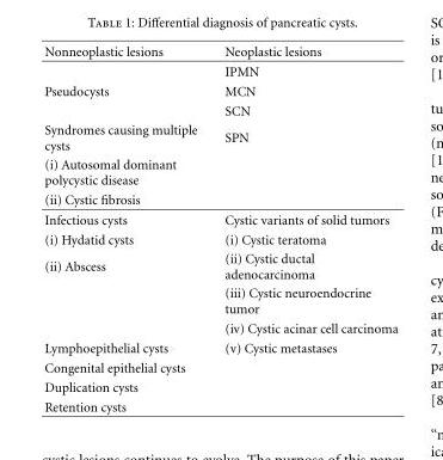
<table><thead><tr><td>Nonneoplastic lesions</td><td>Neoplastic lesions</td></tr></thead><tbody><tr><td></td><td>IPMN</td></tr><tr><td rowspan="2">Pseudocysts</td><td>MCN</td></tr><tr><td>SCN</td></tr><tr><td>Syndromes causing multiple cysts</td><td>SPN</td></tr><tr><td colspan="2">(i) Autosomal dominant polycystic disease</td></tr><tr><td colspan="2">(ii) Cystic fibrosis</td></tr><tr><td>Infectious cysts</td><td>Cystic variants of solid tumors</td></tr><tr><td>(i) Hydatid cysts</td><td>(i) Cystic teratoma</td></tr><tr><td rowspan="3">(ii) Abscess</td><td>(ii) Cystic ductal adenocarcinoma</td></tr><tr><td>(iii) Cystic neuroendocrine tumor</td></tr><tr><td>(iv) Cystic acinar cell carcinoma</td></tr><tr><td>Lymphoepithelial cysts</td><td>(v) Cystic metastases</td></tr><tr><td colspan="2">Congenital epithelial cysts</td></tr><tr><td colspan="2">Duplication cysts</td></tr><tr><td>Retention cysts</td><td></td></tr></tbody></table>